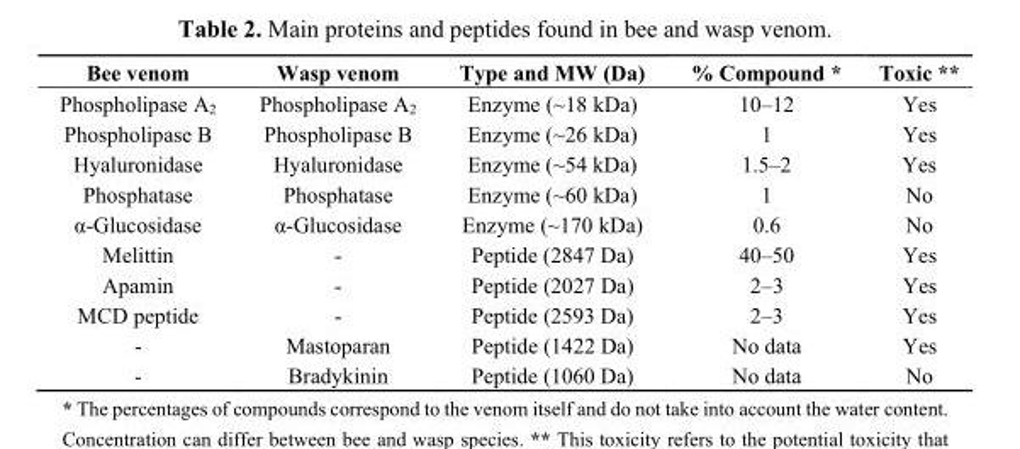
<table><thead><tr><td>Bee venom</td><td>Wasp venom</td><td>Type and MW (Da)</td><td>% Compound *</td><td>Toxic **</td></tr></thead><tbody><tr><td>Phospholipase A<sub>2</sub></td><td>Phospholipase A<sub>2</sub></td><td>Enzyme (~18 kDa)</td><td>10–12</td><td>Yes</td></tr><tr><td>Phospholipase B</td><td>Phospholipase B</td><td>Enzyme (~26 kDa)</td><td>1</td><td>Yes</td></tr><tr><td>Hyaluronidase</td><td>Hyaluronidase</td><td>Enzyme (~54 kDa)</td><td>1.5–2</td><td>Yes</td></tr><tr><td>Phosphatase</td><td>Phosphatase</td><td>Enzyme (~60 kDa)</td><td>1</td><td>No</td></tr><tr><td>α-Glucosidase</td><td>α-Glucosidase</td><td>Enzyme (~170 kDa)</td><td>0.6</td><td>No</td></tr><tr><td>Melittin</td><td>-</td><td>Peptide (2847 Da)</td><td>40–50</td><td>Yes</td></tr><tr><td>Apamin</td><td>-</td><td>Peptide (2027 Da)</td><td>2–3</td><td>Yes</td></tr><tr><td>MCD peptide</td><td>-</td><td>Peptide (2593 Da)</td><td>2–3</td><td>Yes</td></tr><tr><td>-</td><td>Mastoparan</td><td>Peptide (1422 Da)</td><td>No data</td><td>Yes</td></tr><tr><td>-</td><td>Bradykinin</td><td>Peptide (1060 Da)</td><td>No data</td><td>No</td></tr></tbody></table>